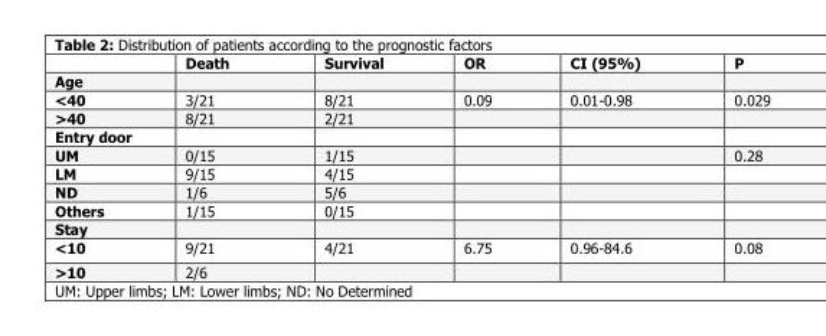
<table><thead><tr><td></td><td>Death</td><td>Survival</td><td>OR</td><td>CI (95%)</td><td>P</td></tr></thead><tbody><tr><td colspan="6">Age</td></tr><tr><td>&lt;40</td><td>3/21</td><td>8/21</td><td>0.09</td><td>0.01-0.98</td><td>0.029</td></tr><tr><td>&gt;40</td><td>8/21</td><td>2/21</td><td></td><td></td><td></td></tr><tr><td colspan="6">Entry door</td></tr><tr><td>UM</td><td>0/15</td><td>1/15</td><td></td><td></td><td>0.28</td></tr><tr><td>LM</td><td>9/15</td><td>4/15</td><td></td><td></td><td></td></tr><tr><td>ND</td><td>1/6</td><td>5/6</td><td></td><td></td><td></td></tr><tr><td>Others</td><td>1/15</td><td>0/15</td><td></td><td></td><td></td></tr><tr><td colspan="6">Stay</td></tr><tr><td>&lt;10</td><td>9/21</td><td>4/21</td><td>6.75</td><td>0.96-84.6</td><td>0.08</td></tr><tr><td>&gt;10</td><td>2/6</td><td></td><td></td><td></td><td></td></tr></tbody></table>